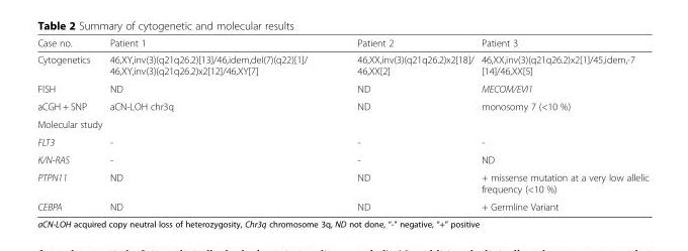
<table><thead><tr><td>Case no.</td><td>Patient 1</td><td>Patient 2</td><td>Patient 3</td></tr></thead><tbody><tr><td>Cytogenetics</td><td>46,XY,inv(3)(q21q26.2)[13]/46,idem,del(7)(q22)[1]/ 46,XY,inv(3)(q21q26.2)x2[12]/46,XY[7]</td><td>46,XX,inv(3)(q21q26.2)x2[18]/ 46,XX[2]</td><td>46,XX,inv(3)(q21q26.2)x2[1]/45,idem,-7 [14]/46,XX[5]</td></tr><tr><td>FISH</td><td>ND</td><td>ND</td><td>MECOM/EVI1</td></tr><tr><td>aCGH + SNP</td><td>aCN-LOH chr3q</td><td>ND</td><td>monosomy 7 (&lt;10 %)</td></tr><tr><td colspan="4">Molecular study</td></tr><tr><td>FLT3</td><td>-</td><td>-</td><td>-</td></tr><tr><td>K/N-RAS</td><td>-</td><td>-</td><td>ND</td></tr><tr><td>PTPN11</td><td>ND</td><td>ND</td><td>+ missense mutation at a very low allelic frequency (&lt;10 %)</td></tr><tr><td>CEBPA</td><td>ND</td><td>ND</td><td>+ Germline Variant</td></tr></tbody></table>